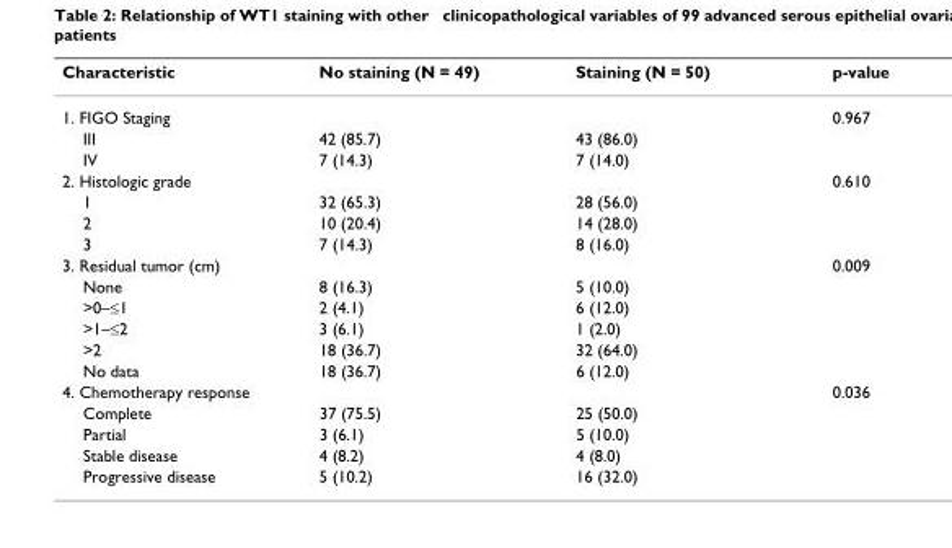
<table><thead><tr><td>Characteristic</td><td>No staining (N = 49)</td><td>Staining (N = 50)</td><td>p-value</td></tr></thead><tbody><tr><td>1. FIGO Staging</td><td></td><td></td><td>0.967</td></tr><tr><td>III</td><td>42 (85.7)</td><td>43 (86.0)</td><td></td></tr><tr><td>IV</td><td>7 (14.3)</td><td>7 (14.0)</td><td></td></tr><tr><td>2. Histologic grade</td><td></td><td></td><td>0.610</td></tr><tr><td>1</td><td>32 (65.3)</td><td>28 (56.0)</td><td></td></tr><tr><td>2</td><td>10 (20.4)</td><td>14 (28.0)</td><td></td></tr><tr><td>3</td><td>7 (14.3)</td><td>8 (16.0)</td><td></td></tr><tr><td>3. Residual tumor (cm)</td><td></td><td></td><td>0.009</td></tr><tr><td>None</td><td>8 (16.3)</td><td>5 (10.0)</td><td></td></tr><tr><td>&gt;0–≤1</td><td>2 (4.1)</td><td>6 (12.0)</td><td></td></tr><tr><td>&gt;1–≤2</td><td>3 (6.1)</td><td>1 (2.0)</td><td></td></tr><tr><td>&gt;2</td><td>18 (36.7)</td><td>32 (64.0)</td><td></td></tr><tr><td>No data</td><td>18 (36.7)</td><td>6 (12.0)</td><td></td></tr><tr><td>4. Chemotherapy response</td><td></td><td></td><td>0.036</td></tr><tr><td>Complete</td><td>37 (75.5)</td><td>25 (50.0)</td><td></td></tr><tr><td>Partial</td><td>3 (6.1)</td><td>5 (10.0)</td><td></td></tr><tr><td>Stable disease</td><td>4 (8.2)</td><td>4 (8.0)</td><td></td></tr><tr><td>Progressive disease</td><td>5 (10.2)</td><td>16 (32.0)</td><td></td></tr></tbody></table>